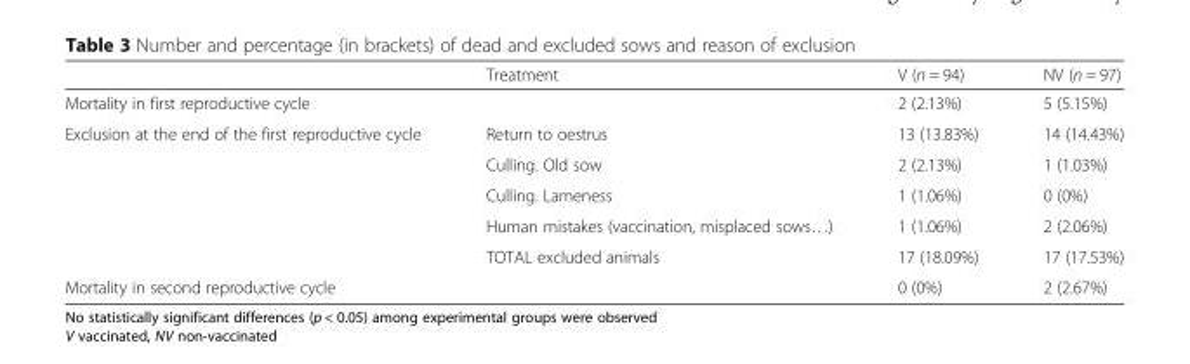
<table><thead><tr><td></td><td>Treatment</td><td>V (n = 94)</td><td>NV (n = 97)</td></tr></thead><tbody><tr><td colspan="2">Mortality in first reproductive cycle</td><td>2 (2.13%)</td><td>5 (5.15%)</td></tr><tr><td rowspan="5">Exclusion at the end of the first reproductive cycle</td><td>Return to oestrus</td><td>13 (13.83%)</td><td>14 (14.43%)</td></tr><tr><td>Culling. Old sow</td><td>2 (2.13%)</td><td>1 (1.03%)</td></tr><tr><td>Culling. Lameness</td><td>1 (1.06%)</td><td>0 (0%)</td></tr><tr><td>Human mistakes (vaccination, misplaced sows…)</td><td>1 (1.06%)</td><td>2 (2.06%)</td></tr><tr><td>TOTAL excluded animals</td><td>17 (18.09%)</td><td>17 (17.53%)</td></tr><tr><td colspan="2">Mortality in second reproductive cycle</td><td>0 (0%)</td><td>2 (2.67%)</td></tr></tbody></table>